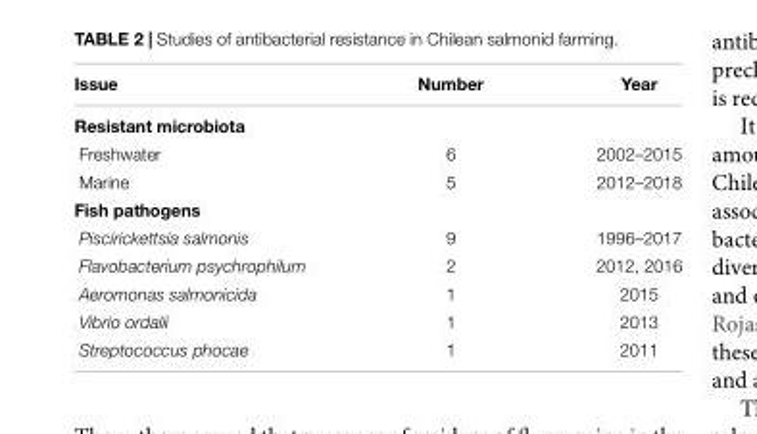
<table><thead><tr><td>Issue</td><td>Number</td><td>Year</td></tr></thead><tbody><tr><td colspan="3">Resistant microbiota</td></tr><tr><td>Freshwater</td><td>6</td><td>2002–2015</td></tr><tr><td>Marine</td><td>5</td><td>2012–2018</td></tr><tr><td colspan="3">Fish pathogens</td></tr><tr><td>Piscirickettsia salmonis</td><td>9</td><td>1996–2017</td></tr><tr><td>Flavobacterium psychrophilum</td><td>2</td><td>2012, 2016</td></tr><tr><td>Aeromonas salmonicida</td><td>1</td><td>2015</td></tr><tr><td>Vibrio ordalii</td><td>1</td><td>2013</td></tr><tr><td>Streptococcus phocae</td><td>1</td><td>2011</td></tr></tbody></table>